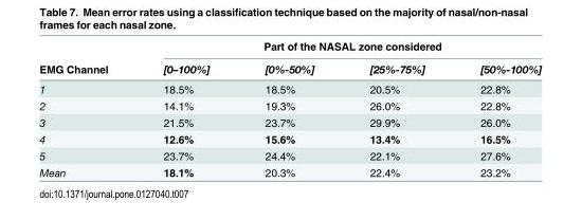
<table><thead><tr><td rowspan="2">EMG Channel</td><td colspan="4">Part of the NASAL zone considered</td></tr><tr><td>[0–100%]</td><td>[0%-50%]</td><td>[25%-75%]</td><td>[50%-100%]</td></tr></thead><tbody><tr><td>1</td><td>18.5%</td><td>18.5%</td><td>20.5%</td><td>22.8%</td></tr><tr><td>2</td><td>14.1%</td><td>19.3%</td><td>26.0%</td><td>22.8%</td></tr><tr><td>3</td><td>21.5%</td><td>23.7%</td><td>29.9%</td><td>26.0%</td></tr><tr><td>4</td><td>12.6%</td><td>15.6%</td><td>13.4%</td><td>16.5%</td></tr><tr><td>5</td><td>23.7%</td><td>24.4%</td><td>22.1%</td><td>27.6%</td></tr><tr><td>Mean</td><td>18.1%</td><td>20.3%</td><td>22.4%</td><td>23.2%</td></tr></tbody></table>